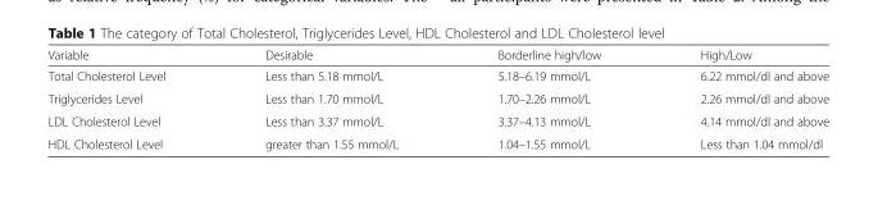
<table><thead><tr><td>Variable</td><td>Desirable</td><td>Borderline high/low</td><td>High/Low</td></tr></thead><tbody><tr><td>Total Cholesterol Level</td><td>Less than 5.18 mmol/L</td><td>5.18–6.19 mmol/L</td><td>6.22 mmol/dl and above</td></tr><tr><td>Triglycerides Level</td><td>Less than 1.70 mmol/L</td><td>1.70–2.26 mmol/L</td><td>2.26 mmol/dl and above</td></tr><tr><td>LDL Cholesterol Level</td><td>Less than 3.37 mmol/L</td><td>3.37–4.13 mmol/L</td><td>4.14 mmol/dl and above</td></tr><tr><td>HDL Cholesterol Level</td><td>greater than 1.55 mmol/L</td><td>1.04–1.55 mmol/L</td><td>Less than 1.04 mmol/dl</td></tr></tbody></table>